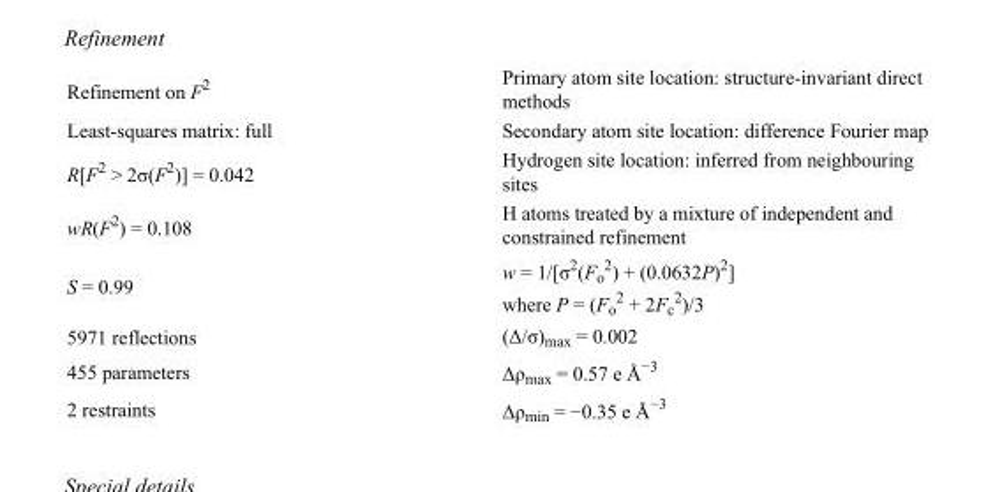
<table><tbody><tr><td>Refinement on F<sup>2</sup></td><td>Primary atom site location: structure-invariant direct methods</td></tr><tr><td>Least-squares matrix: full</td><td>Secondary atom site location: difference Fourier map</td></tr><tr><td>R[F<sup>2</sup> &gt; 2σ(F<sup>2</sup>)] = 0.042</td><td>Hydrogen site location: inferred from neighbouring sites</td></tr><tr><td>wR(F<sup>2</sup>) = 0.108</td><td>H atoms treated by a mixture of independent and constrained refinement</td></tr><tr><td>S = 0.99</td><td>w = 1/[σ<sup>2</sup>(F<sub>o</sub> <sup>2</sup>) + (0.0632P)<sup>2</sup>] where P = (F<sub>o</sub> <sup>2</sup> + 2F<sub>c</sub> <sup>2</sup>)/3</td></tr><tr><td>5971 reflections</td><td>(Δ/σ)<sub>max</sub> = 0.002</td></tr><tr><td>455 parameters</td><td>Δρ<sub>max</sub> = 0.57 e Å<sup>−3</sup></td></tr><tr><td>2 restraints</td><td>Δρ<sub>min</sub> = −0.35 e Å<sup>−3</sup></td></tr></tbody></table>